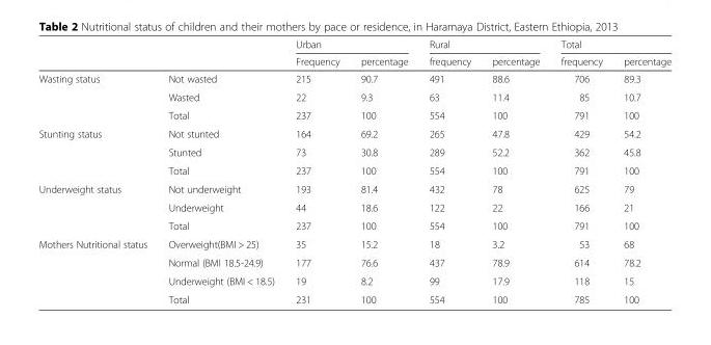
<table><thead><tr><td rowspan="2"></td><td rowspan="2"></td><td colspan="2">Urban</td><td colspan="2">Rural</td><td colspan="2">Total</td></tr><tr><td>Frequency</td><td>percentage</td><td>frequency</td><td>percentage</td><td>frequency</td><td>percentage</td></tr></thead><tbody><tr><td rowspan="3">Wasting status</td><td>Not wasted</td><td>215</td><td>90.7</td><td>491</td><td>88.6</td><td>706</td><td>89.3</td></tr><tr><td>Wasted</td><td>22</td><td>9.3</td><td>63</td><td>11.4</td><td>85</td><td>10.7</td></tr><tr><td>Total</td><td>237</td><td>100</td><td>554</td><td>100</td><td>791</td><td>100</td></tr><tr><td rowspan="3">Stunting status</td><td>Not stunted</td><td>164</td><td>69.2</td><td>265</td><td>47.8</td><td>429</td><td>54.2</td></tr><tr><td>Stunted</td><td>73</td><td>30.8</td><td>289</td><td>52.2</td><td>362</td><td>45.8</td></tr><tr><td>Total</td><td>237</td><td>100</td><td>554</td><td>100</td><td>791</td><td>100</td></tr><tr><td rowspan="3">Underweight status</td><td>Not underweight</td><td>193</td><td>81.4</td><td>432</td><td>78</td><td>625</td><td>79</td></tr><tr><td>Underweight</td><td>44</td><td>18.6</td><td>122</td><td>22</td><td>166</td><td>21</td></tr><tr><td>Total</td><td>237</td><td>100</td><td>554</td><td>100</td><td>791</td><td>100</td></tr><tr><td rowspan="4">Mothers Nutritional status</td><td>Overweight(BMI &gt; 25)</td><td>35</td><td>15.2</td><td>18</td><td>3.2</td><td>53</td><td>68</td></tr><tr><td>Normal (BMI 18.5-24.9)</td><td>177</td><td>76.6</td><td>437</td><td>78.9</td><td>614</td><td>78.2</td></tr><tr><td>Underweight (BMI &lt; 18.5)</td><td>19</td><td>8.2</td><td>99</td><td>17.9</td><td>118</td><td>15</td></tr><tr><td>Total</td><td>231</td><td>100</td><td>554</td><td>100</td><td>785</td><td>100</td></tr></tbody></table>